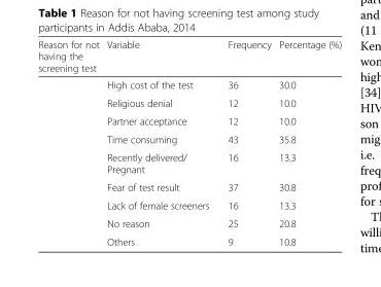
<table><thead><tr><td>Reason for not having the screening test</td><td>Variable</td><td>Frequency</td><td>Percentage (%)</td></tr></thead><tbody><tr><td rowspan="9"></td><td>High cost of the test</td><td>36</td><td>30.0</td></tr><tr><td>Religious denial</td><td>12</td><td>10.0</td></tr><tr><td>Partner acceptance</td><td>12</td><td>10.0</td></tr><tr><td>Time consuming</td><td>43</td><td>35.8</td></tr><tr><td>Recently delivered/ Pregnant</td><td>16</td><td>13.3</td></tr><tr><td>Fear of test result</td><td>37</td><td>30.8</td></tr><tr><td>Lack of female screeners</td><td>16</td><td>13.3</td></tr><tr><td>No reason</td><td>25</td><td>20.8</td></tr><tr><td>Others</td><td>9</td><td>10.8</td></tr></tbody></table>